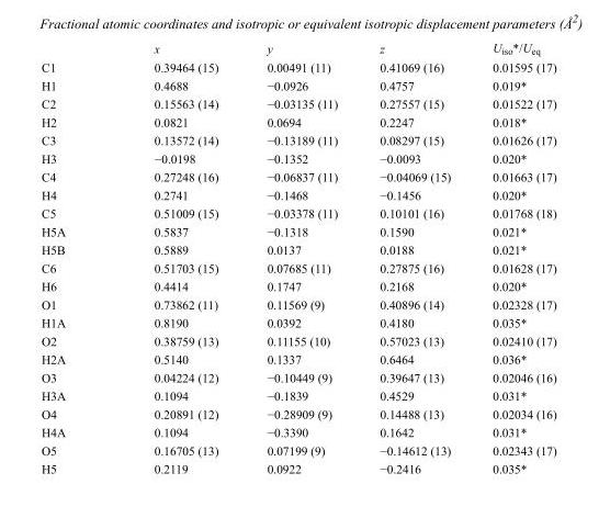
<table><thead><tr><td></td><td>x</td><td>y</td><td>z</td><td>U<sub>iso</sub>*/U<sub>eq</sub></td></tr></thead><tbody><tr><td>C1</td><td>0.39464 (15)</td><td>0.00491 (11)</td><td>0.41069 (16)</td><td>0.01595 (17)</td></tr><tr><td>H1</td><td>0.4688</td><td>−0.0926</td><td>0.4757</td><td>0.019*</td></tr><tr><td>C2</td><td>0.15563 (14)</td><td>−0.03135 (11)</td><td>0.27557 (15)</td><td>0.01522 (17)</td></tr><tr><td>H2</td><td>0.0821</td><td>0.0694</td><td>0.2247</td><td>0.018*</td></tr><tr><td>C3</td><td>0.13572 (14)</td><td>−0.13189 (11)</td><td>0.08297 (15)</td><td>0.01626 (17)</td></tr><tr><td>H3</td><td>−0.0198</td><td>−0.1352</td><td>−0.0093</td><td>0.020*</td></tr><tr><td>C4</td><td>0.27248 (16)</td><td>−0.06837 (11)</td><td>−0.04069 (15)</td><td>0.01663 (17)</td></tr><tr><td>H4</td><td>0.2741</td><td>−0.1468</td><td>−0.1456</td><td>0.020*</td></tr><tr><td>C5</td><td>0.51009 (15)</td><td>−0.03378 (11)</td><td>0.10101 (16)</td><td>0.01768 (18)</td></tr><tr><td>H5A</td><td>0.5837</td><td>−0.1318</td><td>0.1590</td><td>0.021*</td></tr><tr><td>H5B</td><td>0.5889</td><td>0.0137</td><td>0.0188</td><td>0.021*</td></tr><tr><td>C6</td><td>0.51703 (15)</td><td>0.07685 (11)</td><td>0.27875 (16)</td><td>0.01628 (17)</td></tr><tr><td>H6</td><td>0.4414</td><td>0.1747</td><td>0.2168</td><td>0.020*</td></tr><tr><td>O1</td><td>0.73862 (11)</td><td>0.11569 (9)</td><td>0.40896 (14)</td><td>0.02328 (17)</td></tr><tr><td>H1A</td><td>0.8190</td><td>0.0392</td><td>0.4180</td><td>0.035*</td></tr><tr><td>O2</td><td>0.38759 (13)</td><td>0.11155 (10)</td><td>0.57023 (13)</td><td>0.02410 (17)</td></tr><tr><td>H2A</td><td>0.5140</td><td>0.1337</td><td>0.6464</td><td>0.036*</td></tr><tr><td>O3</td><td>0.04224 (12)</td><td>−0.10449 (9)</td><td>0.39647 (13)</td><td>0.02046 (16)</td></tr><tr><td>H3A</td><td>0.1094</td><td>−0.1839</td><td>0.4529</td><td>0.031*</td></tr><tr><td>O4</td><td>0.20891 (12)</td><td>−0.28909 (9)</td><td>0.14488 (13)</td><td>0.02034 (16)</td></tr><tr><td>H4A</td><td>0.1094</td><td>−0.3390</td><td>0.1642</td><td>0.031*</td></tr><tr><td>O5</td><td>0.16705 (13)</td><td>0.07199 (9)</td><td>−0.14612 (13)</td><td>0.02343 (17)</td></tr><tr><td>H5</td><td>0.2119</td><td>0.0922</td><td>−0.2416</td><td>0.035*</td></tr></tbody></table>